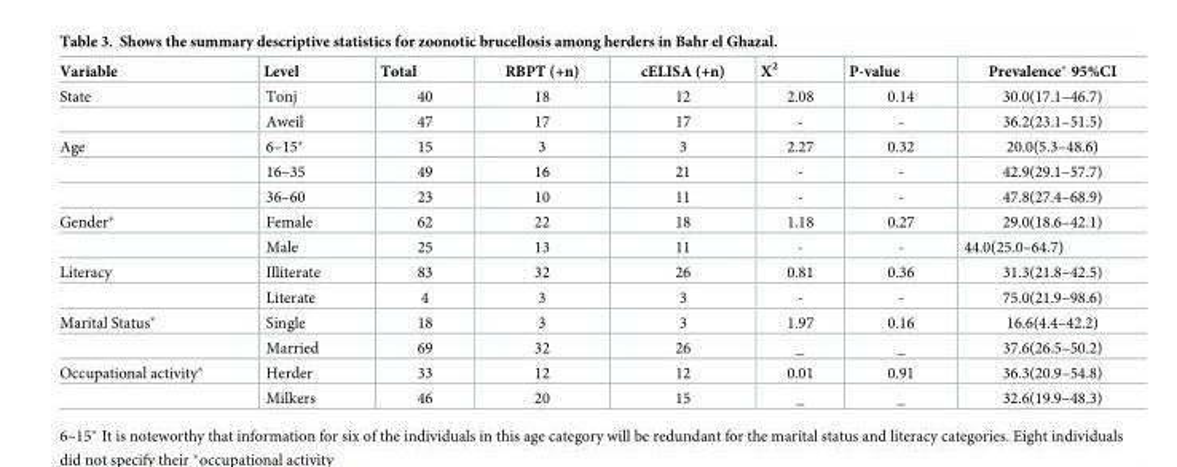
<table><thead><tr><td>Variable</td><td>Level</td><td>Total</td><td>RBPT (+n)</td><td>cELISA (+n)</td><td>X<sup>2</sup></td><td>P-value</td><td>Prevalence* 95%CI</td></tr></thead><tbody><tr><td rowspan="2">State</td><td>Tonj</td><td>40</td><td>18</td><td>12</td><td>2.08</td><td>0.14</td><td>30.0(17.1–46.7)</td></tr><tr><td>Aweil</td><td>47</td><td>17</td><td>17</td><td>-</td><td>-</td><td>36.2(23.1–51.5)</td></tr><tr><td rowspan="3">Age</td><td>6–15*</td><td>15</td><td>3</td><td>3</td><td>2.27</td><td>0.32</td><td>20.0(5.3–48.6)</td></tr><tr><td>16–35</td><td>49</td><td>16</td><td>21</td><td>-</td><td>-</td><td>42.9(29.1–57.7)</td></tr><tr><td>36–60</td><td>23</td><td>10</td><td>11</td><td>-</td><td>-</td><td>47.8(27.4–68.9)</td></tr><tr><td rowspan="2">Gender*</td><td>Female</td><td>62</td><td>22</td><td>18</td><td>1.18</td><td>0.27</td><td>29.0(18.6–42.1)</td></tr><tr><td>Male</td><td>25</td><td>13</td><td>11</td><td>-</td><td>-</td><td>44.0(25.0–64.7)</td></tr><tr><td rowspan="2">Literacy</td><td>Illiterate</td><td>83</td><td>32</td><td>26</td><td>0.81</td><td>0.36</td><td>31.3(21.8–42.5)</td></tr><tr><td>Literate</td><td>4</td><td>3</td><td>3</td><td>-</td><td>-</td><td>75.0(21.9–98.6)</td></tr><tr><td rowspan="2">Marital Status*</td><td>Single</td><td>18</td><td>3</td><td>3</td><td>1.97</td><td>0.16</td><td>16.6(4.4–42.2)</td></tr><tr><td>Married</td><td>69</td><td>32</td><td>26</td><td>_</td><td>_</td><td>37.6(26.5–50.2)</td></tr><tr><td rowspan="2">Occupational activity*</td><td>Herder</td><td>33</td><td>12</td><td>12</td><td>0.01</td><td>0.91</td><td>36.3(20.9–54.8)</td></tr><tr><td>Milkers</td><td>46</td><td>20</td><td>15</td><td>_</td><td>_</td><td>32.6(19.9–48.3)</td></tr></tbody></table>